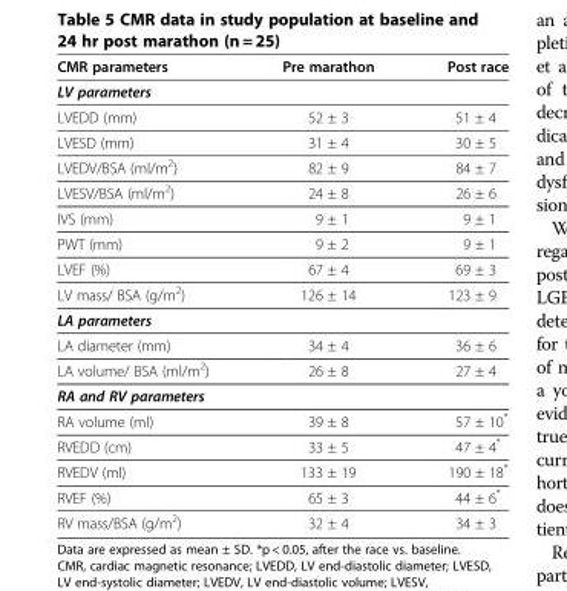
<table><thead><tr><td>CMR parameters</td><td>Pre marathon</td><td>Post race</td></tr></thead><tbody><tr><td colspan="3">LV parameters</td></tr><tr><td>LVEDD (mm)</td><td>52 ± 3</td><td>51 ± 4</td></tr><tr><td>LVESD (mm)</td><td>31 ± 4</td><td>30 ± 5</td></tr><tr><td>LVEDV/BSA (ml/m<sup>2</sup>)</td><td>82 ± 9</td><td>84 ± 7</td></tr><tr><td>LVESV/BSA (ml/m<sup>2</sup>)</td><td>24 ± 8</td><td>26 ± 6</td></tr><tr><td>IVS (mm)</td><td>9 ± 1</td><td>9 ± 1</td></tr><tr><td>PWT (mm)</td><td>9 ± 2</td><td>9 ± 1</td></tr><tr><td>LVEF (%)</td><td>67 ± 4</td><td>69 ± 3</td></tr><tr><td>LV mass/ BSA (g/m<sup>2</sup>)</td><td>126 ± 14</td><td>123 ± 9</td></tr><tr><td colspan="3">LA parameters</td></tr><tr><td>LA diameter (mm)</td><td>34 ± 4</td><td>36 ± 6</td></tr><tr><td>LA volume/ BSA (ml/m<sup>2</sup>)</td><td>26 ± 8</td><td>27 ± 4</td></tr><tr><td colspan="3">RA and RV parameters</td></tr><tr><td>RA volume (ml)</td><td>39 ± 8</td><td>57 ± 10*</td></tr><tr><td>RVEDD (cm)</td><td>33 ± 5</td><td>47 ± 4*</td></tr><tr><td>RVEDV (ml)</td><td>133 ± 19</td><td>190 ± 18*</td></tr><tr><td>RVEF (%)</td><td>65 ± 3</td><td>44 ± 6*</td></tr><tr><td>RV mass/BSA (g/m<sup>2</sup>)</td><td>32 ± 4</td><td>34 ± 3</td></tr></tbody></table>